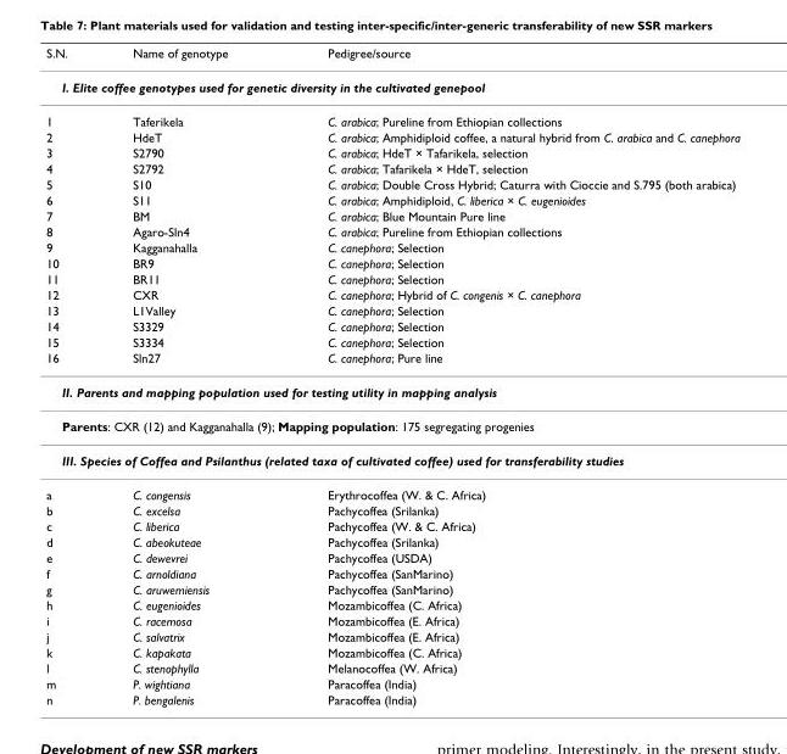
<table><thead><tr><td>S.N.</td><td>Name of genotype</td><td>Pedigree/source</td></tr></thead><tbody><tr><td colspan="3">I. Elite coffee genotypes used for genetic diversity in the cultivated genepool</td></tr><tr><td>1</td><td>Taferikela</td><td>C. arabica; Pureline from Ethiopian collections</td></tr><tr><td>2</td><td>HdeT</td><td>C. arabica; Amphidiploid coffee, a natural hybrid from C. arabica and C. canephora</td></tr><tr><td>3</td><td>S2790</td><td>C. arabica; HdeT × Tafarikela, selection</td></tr><tr><td>4</td><td>S2792</td><td>C. arabica; Tafarikela × HdeT, selection</td></tr><tr><td>5</td><td>S10</td><td>C. arabica; Double Cross Hybrid; Caturra with Cioccie and S.795 (both arabica)</td></tr><tr><td>6</td><td>S11</td><td>C. arabica; Amphidiploid, C. liberica × C. eugenioides</td></tr><tr><td>7</td><td>BM</td><td>C. arabica; Blue Mountain Pure line</td></tr><tr><td>8</td><td>Agaro-Sln4</td><td>C. arabica; Pureline from Ethiopian collections</td></tr><tr><td>9</td><td>Kagganahalla</td><td>C. canephora; Selection</td></tr><tr><td>10</td><td>BR9</td><td>C. canephora; Selection</td></tr><tr><td>11</td><td>BR11</td><td>C. canephora; Selection</td></tr><tr><td>12</td><td>CXR</td><td>C. canephora; Hybrid of C. congenis × C. canephora</td></tr><tr><td>13</td><td>L1Valley</td><td>C. canephora; Selection</td></tr><tr><td>14</td><td>S3329</td><td>C. canephora; Selection</td></tr><tr><td>15</td><td>S3334</td><td>C. canephora; Selection</td></tr><tr><td>16</td><td>Sln27</td><td>C. canephora; Pure line</td></tr><tr><td colspan="3">II. Parents and mapping population used for testing utility in mapping analysis</td></tr><tr><td colspan="3">Parents: CXR (12) and Kagganahalla (9); Mapping population: 175 segregating progenies</td></tr><tr><td colspan="3">III. Species of Coffea and Psilanthus (related taxa of cultivated coffee) used for transferability studies</td></tr><tr><td>a</td><td>C. congensis</td><td>Erythrocoffea (W. &amp; C. Africa)</td></tr><tr><td>b</td><td>C. excelsa</td><td>Pachycoffea (Srilanka)</td></tr><tr><td>c</td><td>C. liberica</td><td>Pachycoffea (W. &amp; C. Africa)</td></tr><tr><td>d</td><td>C. abeokuteae</td><td>Pachycoffea (Srilanka)</td></tr><tr><td>e</td><td>C. dewevrei</td><td>Pachycoffea (USDA)</td></tr><tr><td>f</td><td>C. arnoldiana</td><td>Pachycoffea (SanMarino)</td></tr><tr><td>g</td><td>C. aruwemiensis</td><td>Pachycoffea (SanMarino)</td></tr><tr><td>h</td><td>C. eugenioides</td><td>Mozambicoffea (C. Africa)</td></tr><tr><td>i</td><td>C. racemosa</td><td>Mozambicoffea (E. Africa)</td></tr><tr><td>j</td><td>C. salvatrix</td><td>Mozambicoffea (E. Africa)</td></tr><tr><td>k</td><td>C. kapakata</td><td>Mozambicoffea (C. Africa)</td></tr><tr><td>l</td><td>C. stenophylla</td><td>Melanocoffea (W. Africa)</td></tr><tr><td>m</td><td>P. wightiana</td><td>Paracoffea (India)</td></tr><tr><td>n</td><td>P. bengalenis</td><td>Paracoffea (India)</td></tr></tbody></table>